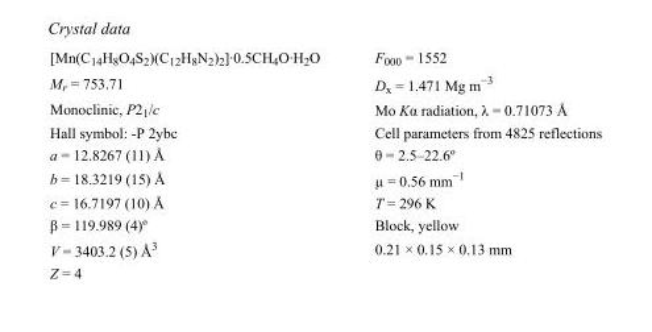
<table><tbody><tr><td>[Mn(C<sub>14</sub>H<sub>8</sub>O<sub>4</sub>S<sub>2</sub>)(C<sub>12</sub>H<sub>8</sub>N<sub>2</sub>)<sub>2</sub>]·0.5CH<sub>4</sub>O·H<sub>2</sub>O</td><td>F000 = 1552</td></tr><tr><td>M<sub>r</sub> = 753.71</td><td>D<sub>x</sub> = 1.471 Mg m<sup>−3</sup></td></tr><tr><td>Monoclinic, P2<sub>1</sub>/c</td><td>Mo Kα radiation, λ = 0.71073 Å</td></tr><tr><td>Hall symbol: -P 2ybc</td><td>Cell parameters from 4825 reflections</td></tr><tr><td>a = 12.8267 (11) Å</td><td>θ = 2.5–22.6º</td></tr><tr><td>b = 18.3219 (15) Å</td><td>µ = 0.56 mm<sup>−1</sup></td></tr><tr><td>c = 16.7197 (10) Å</td><td>T = 296 K</td></tr><tr><td>β = 119.989 (4)º</td><td>Block, yellow</td></tr><tr><td>V = 3403.2 (5) Å<sup>3</sup></td><td>0.21 × 0.15 × 0.13 mm</td></tr><tr><td>Z = 4</td><td></td></tr></tbody></table>